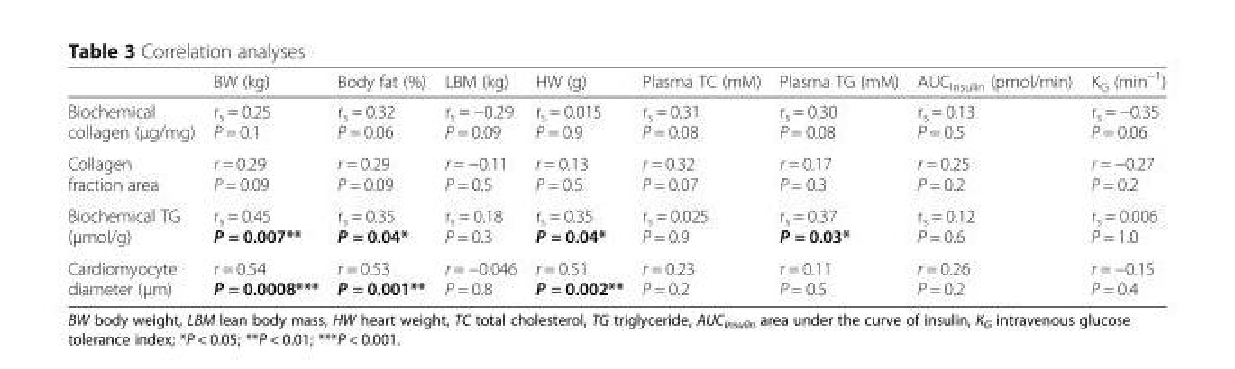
<table><thead><tr><td></td><td>BW (kg)</td><td>Body fat (%)</td><td>LBM (kg)</td><td>HW (g)</td><td>Plasma TC (mM)</td><td>Plasma TG (mM)</td><td>AUC<sub>Insulin</sub> (pmol/min)</td><td>K<sub>G</sub> (min<sup>−1</sup>)</td></tr></thead><tbody><tr><td>Biochemical collagen (μg/mg)</td><td>r<sub>s</sub> = 0.25 P = 0.1</td><td>r<sub>s</sub> = 0.32 P = 0.06</td><td>r<sub>s</sub> = −0.29 P = 0.09</td><td>r<sub>s</sub> = 0.015 P = 0.9</td><td>r<sub>s</sub> = 0.31 P = 0.08</td><td>r<sub>s</sub> = 0.30 P = 0.08</td><td>r<sub>s</sub> = 0.13 P = 0.5</td><td>r<sub>s</sub> = −0.35 P = 0.06</td></tr><tr><td>Collagen fraction area</td><td>r = 0.29 P = 0.09</td><td>r = 0.29 P = 0.09</td><td>r = −0.11 P = 0.5</td><td>r = 0.13 P = 0.5</td><td>r = 0.32 P = 0.07</td><td>r = 0.17 P = 0.3</td><td>r = 0.25 P = 0.2</td><td>r = −0.27 P = 0.2</td></tr><tr><td>Biochemical TG (μmol/g)</td><td>r<sub>s</sub> = 0.45 P = 0.007**</td><td>r<sub>s</sub> = 0.35 P = 0.04*</td><td>r<sub>s</sub> = 0.18 P = 0.3</td><td>r<sub>s</sub> = 0.35 P = 0.04*</td><td>r<sub>s</sub> = 0.025 P = 0.9</td><td>r<sub>s</sub> = 0.37 P = 0.03*</td><td>r<sub>s</sub> = 0.12 P = 0.6</td><td>r<sub>s</sub> = 0.006 P = 1.0</td></tr><tr><td>Cardiomyocyte diameter (μm)</td><td>r = 0.54 P = 0.0008***</td><td>r = 0.53 P = 0.001**</td><td>r = −0.046 P = 0.8</td><td>r = 0.51 P = 0.002**</td><td>r = 0.23 P = 0.2</td><td>r = 0.11 P = 0.5</td><td>r = 0.26 P = 0.2</td><td>r = −0.15 P = 0.4</td></tr></tbody></table>